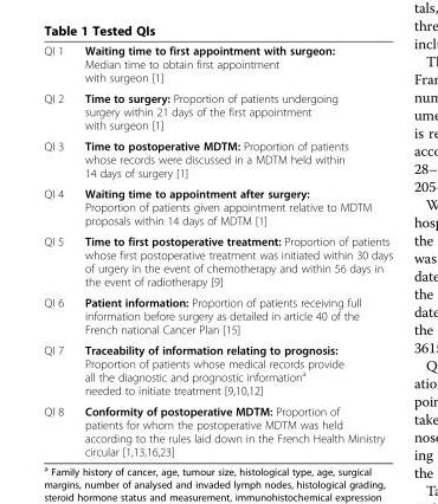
<table><tbody><tr><td>QI 1</td><td>Waiting time to first appointment with surgeon: Median time to obtain first appointment with surgeon [1]</td></tr><tr><td>QI 2</td><td>Time to surgery: Proportion of patients undergoing surgery within 21 days of the first appointment with surgeon [1]</td></tr><tr><td>QI 3</td><td>Time to postoperative MDTM: Proportion of patients whose records were discussed in a MDTM held within 14 days of surgery [1]</td></tr><tr><td>QI 4</td><td>Waiting time to appointment after surgery: Proportion of patients given appointment relative to MDTM proposals within 14 days of MDTM [1]</td></tr><tr><td>QI 5</td><td>Time to first postoperative treatment: Proportion of patients whose first postoperative treatment was initiated within 30 days of urgery in the event of chemotherapy and within 56 days in the event of radiotherapy [9]</td></tr><tr><td>QI 6</td><td>Patient information: Proportion of patients receiving full information before surgery as detailed in article 40 of the French national Cancer Plan [15]</td></tr><tr><td>QI 7</td><td>Traceability of information relating to prognosis: Proportion of patients whose medical records provide all the diagnostic and prognostic information<sup>a</sup> needed to initiate treatment [9,10,12]</td></tr><tr><td>QI 8</td><td>Conformity of postoperative MDTM: Proportion of patients for whom the postoperative MDTM was held according to the rules laid down in the French Health Ministry circular [1,13,16,23]</td></tr></tbody></table>